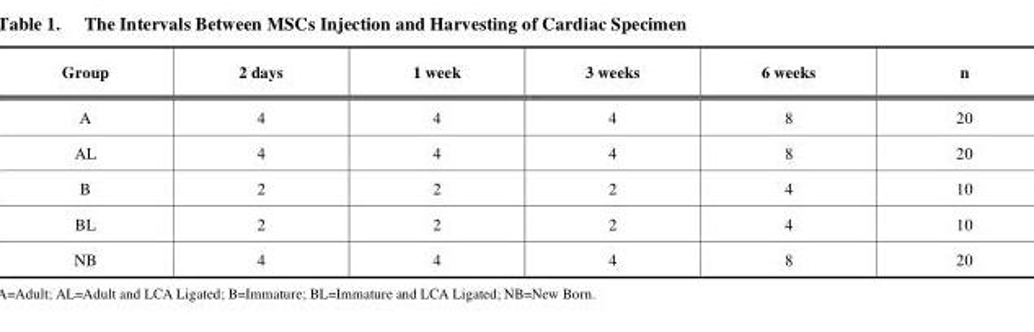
<table><thead><tr><td>Group</td><td>2 days</td><td>1 week</td><td>3 weeks</td><td>6 weeks</td><td>n</td></tr></thead><tbody><tr><td>A</td><td>4</td><td>4</td><td>4</td><td>8</td><td>20</td></tr><tr><td>AL</td><td>4</td><td>4</td><td>4</td><td>8</td><td>20</td></tr><tr><td>B</td><td>2</td><td>2</td><td>2</td><td>4</td><td>10</td></tr><tr><td>BL</td><td>2</td><td>2</td><td>2</td><td>4</td><td>10</td></tr><tr><td>NB</td><td>4</td><td>4</td><td>4</td><td>8</td><td>20</td></tr></tbody></table>